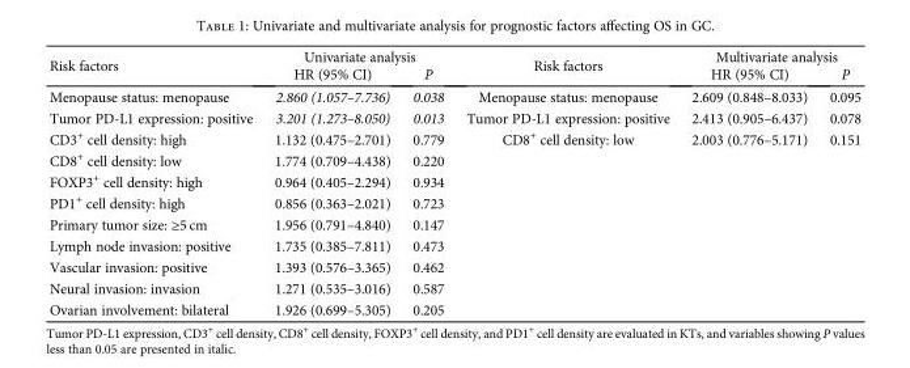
<table><thead><tr><td rowspan="2">Risk factors</td><td colspan="2">Univariate analysis</td><td rowspan="2">Risk factors</td><td colspan="2">Multivariate analysis</td></tr><tr><td>HR (95% CI)</td><td>P</td><td>HR (95% CI)</td><td>P</td></tr></thead><tbody><tr><td>Menopause status: menopause</td><td>2.860 (1.057–7.736)</td><td>0.038</td><td>Menopause status: menopause</td><td>2.609 (0.848–8.033)</td><td>0.095</td></tr><tr><td>Tumor PD-L1 expression: positive</td><td>3.201 (1.273–8.050)</td><td>0.013</td><td>Tumor PD-L1 expression: positive</td><td>2.413 (0.905–6.437)</td><td>0.078</td></tr><tr><td>CD3<sup>+</sup> cell density: high</td><td>1.132 (0.475–2.701)</td><td>0.779</td><td>CD8<sup>+</sup> cell density: low</td><td>2.003 (0.776–5.171)</td><td>0.151</td></tr><tr><td>CD8<sup>+</sup> cell density: low</td><td>1.774 (0.709–4.438)</td><td>0.220</td><td></td><td></td><td></td></tr><tr><td>FOXP3<sup>+</sup> cell density: high</td><td>0.964 (0.405–2.294)</td><td>0.934</td><td></td><td></td><td></td></tr><tr><td>PD1<sup>+</sup> cell density: high</td><td>0.856 (0.363–2.021)</td><td>0.723</td><td></td><td></td><td></td></tr><tr><td>Primary tumor size: ≥5 cm</td><td>1.956 (0.791–4.840)</td><td>0.147</td><td></td><td></td><td></td></tr><tr><td>Lymph node invasion: positive</td><td>1.735 (0.385–7.811)</td><td>0.473</td><td></td><td></td><td></td></tr><tr><td>Vascular invasion: positive</td><td>1.393 (0.576–3.365)</td><td>0.462</td><td></td><td></td><td></td></tr><tr><td>Neural invasion: invasion</td><td>1.271 (0.535–3.016)</td><td>0.587</td><td></td><td></td><td></td></tr><tr><td>Ovarian involvement: bilateral</td><td>1.926 (0.699–5.305)</td><td>0.205</td><td></td><td></td><td></td></tr></tbody></table>